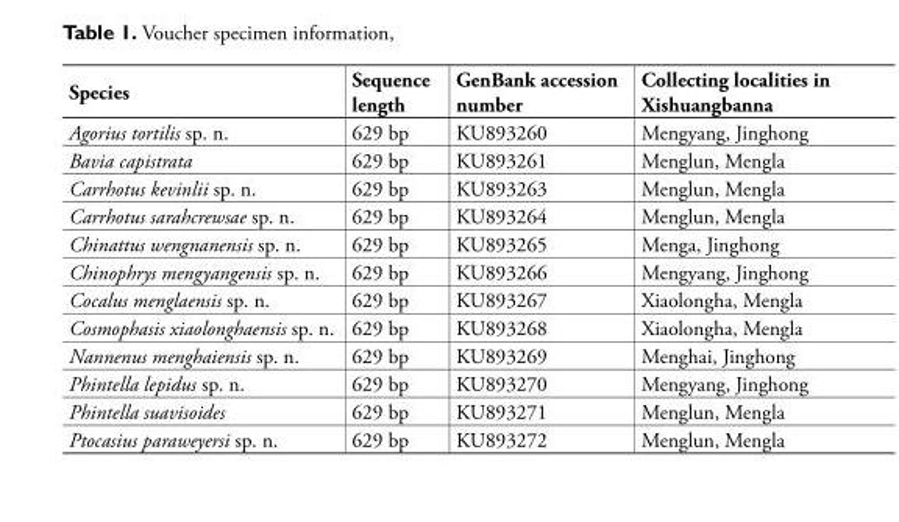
<table><thead><tr><td>Species</td><td>Sequence length</td><td>GenBank accession number</td><td>Collecting localities in Xishuangbanna</td></tr></thead><tbody><tr><td>Agorius tortilis sp. n.</td><td>629 bp</td><td>KU893260</td><td>Mengyang, Jinghong</td></tr><tr><td>Bavia capistrata</td><td>629 bp</td><td>KU893261</td><td>Menglun, Mengla</td></tr><tr><td>Carrhotus kevinlii sp. n.</td><td>629 bp</td><td>KU893263</td><td>Menglun, Mengla</td></tr><tr><td>Carrhotus sarahcrewsae sp. n.</td><td>629 bp</td><td>KU893264</td><td>Menglun, Mengla</td></tr><tr><td>Chinattus wengnanensis sp. n.</td><td>629 bp</td><td>KU893265</td><td>Menga, Jinghong</td></tr><tr><td>Chinophrys mengyangensis sp. n.</td><td>629 bp</td><td>KU893266</td><td>Mengyang, Jinghong</td></tr><tr><td>Cocalus menglaensis sp. n.</td><td>629 bp</td><td>KU893267</td><td>Xiaolongha, Mengla</td></tr><tr><td>Cosmophasis xiaolonghaensis sp. n.</td><td>629 bp</td><td>KU893268</td><td>Xiaolongha, Mengla</td></tr><tr><td>Nannenus menghaiensis sp. n.</td><td>629 bp</td><td>KU893269</td><td>Menghai, Jinghong</td></tr><tr><td>Phintella lepidus sp. n.</td><td>629 bp</td><td>KU893270</td><td>Mengyang, Jinghong</td></tr><tr><td>Phintella suavisoides</td><td>629 bp</td><td>KU893271</td><td>Menglun, Mengla</td></tr><tr><td>Ptocasius paraweyersi sp. n.</td><td>629 bp</td><td>KU893272</td><td>Menglun, Mengla</td></tr></tbody></table>